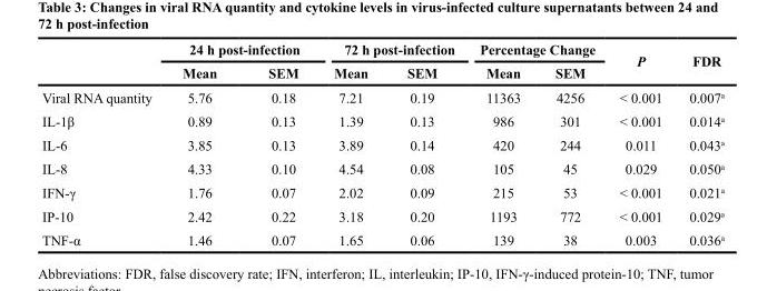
<table><thead><tr><td rowspan="2"></td><td colspan="2">24 h post-infection</td><td colspan="2">72 h post-infection</td><td colspan="2">Percentage Change</td><td rowspan="2">P</td><td rowspan="2">FDR</td></tr><tr><td>Mean</td><td>SEM</td><td>Mean</td><td>SEM</td><td>Mean</td><td>SEM</td></tr></thead><tbody><tr><td>Viral RNA quantity</td><td>5.76</td><td>0.18</td><td>7.21</td><td>0.19</td><td>11363</td><td>4256</td><td>&lt; 0.001</td><td>0.007<sup>a</sup></td></tr><tr><td>IL-1β</td><td>0.89</td><td>0.13</td><td>1.39</td><td>0.13</td><td>986</td><td>301</td><td>&lt; 0.001</td><td>0.014<sup>a</sup></td></tr><tr><td>IL-6</td><td>3.85</td><td>0.13</td><td>3.89</td><td>0.14</td><td>420</td><td>244</td><td>0.011</td><td>0.043<sup>a</sup></td></tr><tr><td>IL-8</td><td>4.33</td><td>0.10</td><td>4.54</td><td>0.08</td><td>105</td><td>45</td><td>0.029</td><td>0.050<sup>a</sup></td></tr><tr><td>IFN-γ</td><td>1.76</td><td>0.07</td><td>2.02</td><td>0.09</td><td>215</td><td>53</td><td>&lt; 0.001</td><td>0.021<sup>a</sup></td></tr><tr><td>IP-10</td><td>2.42</td><td>0.22</td><td>3.18</td><td>0.20</td><td>1193</td><td>772</td><td>&lt; 0.001</td><td>0.029<sup>a</sup></td></tr><tr><td>TNF-α</td><td>1.46</td><td>0.07</td><td>1.65</td><td>0.06</td><td>139</td><td>38</td><td>0.003</td><td>0.036<sup>a</sup></td></tr></tbody></table>